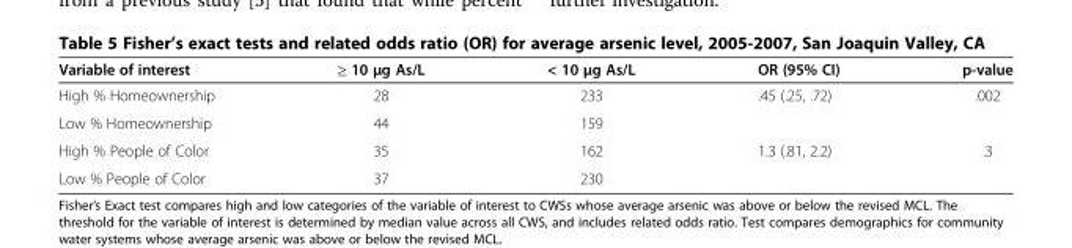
<table><thead><tr><td>Variable of interest</td><td>≥ 10 μg As/L</td><td>&lt; 10 μg As/L</td><td>OR (95% CI)</td><td>p-value</td></tr></thead><tbody><tr><td>High % Homeownership</td><td>28</td><td>233</td><td>.45 (.25, .72)</td><td>.002</td></tr><tr><td>Low % Homeownership</td><td>44</td><td>159</td><td></td><td></td></tr><tr><td>High % People of Color</td><td>35</td><td>162</td><td>1.3 (.81, 2.2)</td><td>.3</td></tr><tr><td>Low % People of Color</td><td>37</td><td>230</td><td></td><td></td></tr></tbody></table>